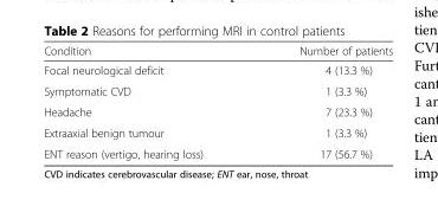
<table><thead><tr><td>Condition</td><td>Number of patients</td></tr></thead><tbody><tr><td>Focal neurological deficit</td><td>4 (13.3 %)</td></tr><tr><td>Symptomatic CVD</td><td>1 (3.3 %)</td></tr><tr><td>Headache</td><td>7 (23.3 %)</td></tr><tr><td>Extraaxial benign tumour</td><td>1 (3.3 %)</td></tr><tr><td>ENT reason (vertigo, hearing loss)</td><td>17 (56.7 %)</td></tr></tbody></table>